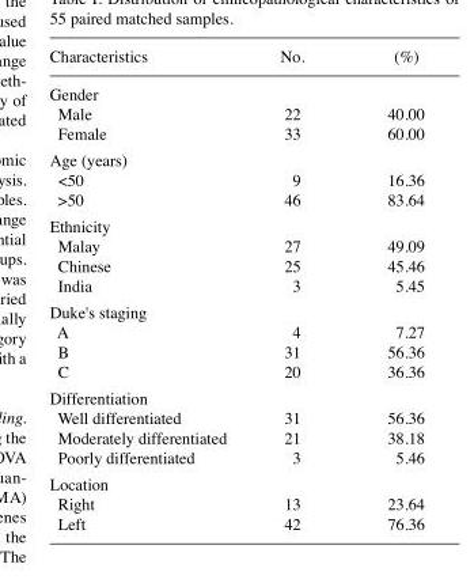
<table><thead><tr><td>Characteristics</td><td>No.</td><td>(%)</td></tr></thead><tbody><tr><td colspan="3">Gender</td></tr><tr><td>Male</td><td>22</td><td>40.00</td></tr><tr><td>Female</td><td>33</td><td>60.00</td></tr><tr><td colspan="3">Age (years)</td></tr><tr><td>&lt;50</td><td>9</td><td>16.36</td></tr><tr><td>&gt;50</td><td>46</td><td>83.64</td></tr><tr><td colspan="3">Ethnicity</td></tr><tr><td>Malay</td><td>27</td><td>49.09</td></tr><tr><td>Chinese</td><td>25</td><td>45.46</td></tr><tr><td>India</td><td>3</td><td>5.45</td></tr><tr><td colspan="3">Duke&#x27;s staging</td></tr><tr><td>A</td><td>4</td><td>7.27</td></tr><tr><td>B</td><td>31</td><td>56.36</td></tr><tr><td>C</td><td>20</td><td>36.36</td></tr><tr><td colspan="3">Differentiation</td></tr><tr><td>Well differentiated</td><td>31</td><td>56.36</td></tr><tr><td>Moderately differentiated</td><td>21</td><td>38.18</td></tr><tr><td>Poorly differentiated</td><td>3</td><td>5.46</td></tr><tr><td colspan="3">Location</td></tr><tr><td>Right</td><td>13</td><td>23.64</td></tr><tr><td>Left</td><td>42</td><td>76.36</td></tr></tbody></table>